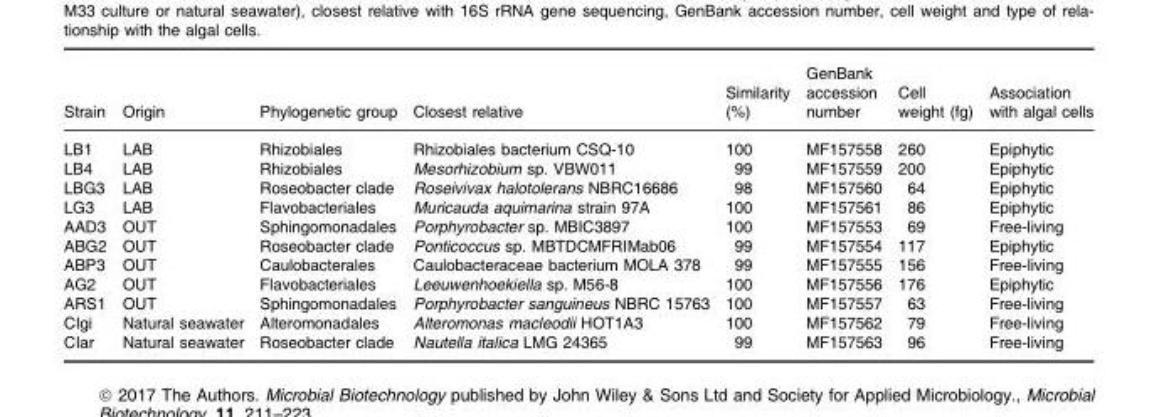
<table><thead><tr><td>Strain</td><td>Origin</td><td>Phylogenetic group</td><td>Closest relative</td><td>Similarity (%)</td><td>GenBank accession number</td><td>Cell weight (fg)</td><td>Association with algal cells</td></tr></thead><tbody><tr><td>LB1</td><td>LAB</td><td>Rhizobiales</td><td>Rhizobiales bacterium CSQ-10</td><td>100</td><td>MF157558</td><td>260</td><td>Epiphytic</td></tr><tr><td>LB4</td><td>LAB</td><td>Rhizobiales</td><td>Mesorhizobium sp. VBW011</td><td>99</td><td>MF157559</td><td>200</td><td>Epiphytic</td></tr><tr><td>LBG3</td><td>LAB</td><td>Roseobacter clade</td><td>Roseivivax halotolerans NBRC16686</td><td>98</td><td>MF157560</td><td>64</td><td>Epiphytic</td></tr><tr><td>LG3</td><td>LAB</td><td>Flavobacteriales</td><td>Muricauda aquimarina strain 97A</td><td>100</td><td>MF157561</td><td>86</td><td>Epiphytic</td></tr><tr><td>AAD3</td><td>OUT</td><td>Sphingomonadales</td><td>Porphyrobacter sp. MBIC3897</td><td>100</td><td>MF157553</td><td>69</td><td>Free-living</td></tr><tr><td>ABG2</td><td>OUT</td><td>Roseobacter clade</td><td>Ponticoccus sp. MBTDCMFRIMab06</td><td>99</td><td>MF157554</td><td>117</td><td>Epiphytic</td></tr><tr><td>ABP3</td><td>OUT</td><td>Caulobacterales</td><td>Caulobacteraceae bacterium MOLA 378</td><td>99</td><td>MF157555</td><td>156</td><td>Free-living</td></tr><tr><td>AG2</td><td>OUT</td><td>Flavobacteriales</td><td>Leeuwenhoekiella sp. M56-8</td><td>100</td><td>MF157556</td><td>176</td><td>Epiphytic</td></tr><tr><td>ARS1</td><td>OUT</td><td>Sphingomonadales</td><td>Porphyrobacter sanguineus NBRC 15763</td><td>100</td><td>MF157557</td><td>63</td><td>Free-living</td></tr><tr><td>CIgi</td><td>Natural seawater</td><td>Alteromonadales</td><td>Alteromonas macleodii HOT1A3</td><td>100</td><td>MF157562</td><td>79</td><td>Free-living</td></tr><tr><td>CIar</td><td>Natural seawater</td><td>Roseobacter clade</td><td>Nautella italica LMG 24365</td><td>99</td><td>MF157563</td><td>96</td><td>Free-living</td></tr></tbody></table>